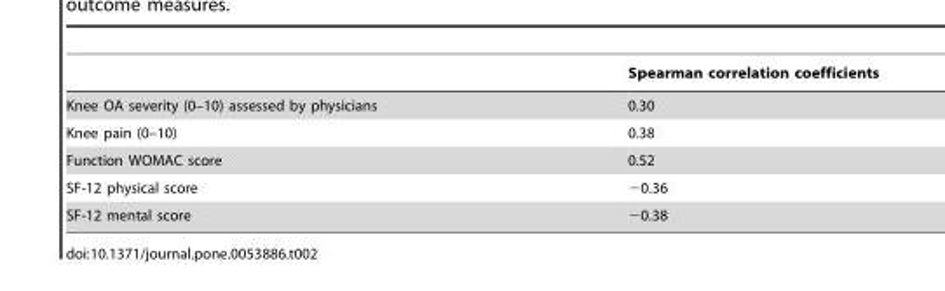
<table><thead><tr><td></td><td>Spearman correlation coefficients</td></tr></thead><tbody><tr><td>Knee OA severity (0–10) assessed by physicians</td><td>0.30</td></tr><tr><td>Knee pain (0–10)</td><td>0.38</td></tr><tr><td>Function WOMAC score</td><td>0.52</td></tr><tr><td>SF-12 physical score</td><td>−0.36</td></tr><tr><td>SF-12 mental score</td><td>−0.38</td></tr></tbody></table>